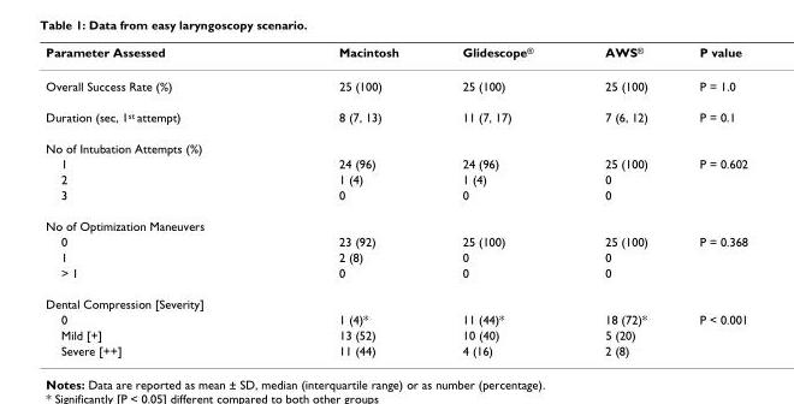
<table><thead><tr><td>Parameter Assessed</td><td>Macintosh</td><td>Glidescope<sup>®</sup></td><td>AWS<sup>®</sup></td><td>P value</td></tr></thead><tbody><tr><td>Overall Success Rate (%)</td><td>25 (100)</td><td>25 (100)</td><td>25 (100)</td><td>P = 1.0</td></tr><tr><td>Duration (sec, 1<sup>st</sup> attempt)</td><td>8 (7, 13)</td><td>11 (7, 17)</td><td>7 (6, 12)</td><td>P = 0.1</td></tr><tr><td colspan="5">No of Intubation Attempts (%)</td></tr><tr><td>1</td><td>24 (96)</td><td>24 (96)</td><td>25 (100)</td><td>P = 0.602</td></tr><tr><td>2</td><td>1 (4)</td><td>1 (4)</td><td>0</td><td></td></tr><tr><td>3</td><td>0</td><td>0</td><td>0</td><td></td></tr><tr><td colspan="5">No of Optimization Maneuvers</td></tr><tr><td>0</td><td>23 (92)</td><td>25 (100)</td><td>25 (100)</td><td>P = 0.368</td></tr><tr><td>1</td><td>2 (8)</td><td>0</td><td>0</td><td></td></tr><tr><td>&gt; 1</td><td>0</td><td>0</td><td>0</td><td></td></tr><tr><td colspan="5">Dental Compression [Severity]</td></tr><tr><td>0</td><td>1 (4)*</td><td>11 (44)*</td><td>18 (72)*</td><td>P &lt; 0.001</td></tr><tr><td>Mild [+]</td><td>13 (52)</td><td>10 (40)</td><td>5 (20)</td><td></td></tr><tr><td>Severe [++]</td><td>11 (44)</td><td>4 (16)</td><td>2 (8)</td><td></td></tr></tbody></table>